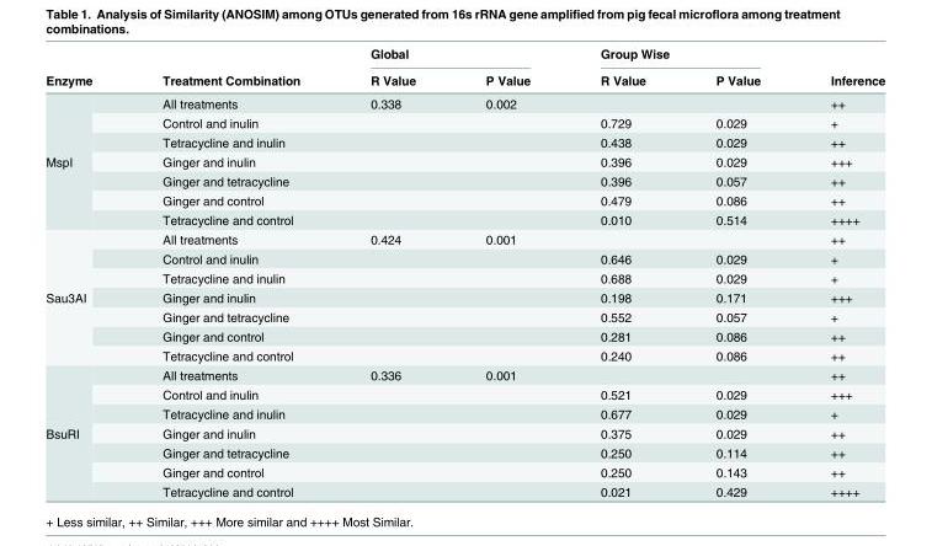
<table><thead><tr><td rowspan="2">Enzyme</td><td rowspan="2">Treatment Combination</td><td colspan="2">Global</td><td colspan="2">Group Wise</td><td rowspan="2">Inference</td></tr><tr><td>R Value</td><td>P Value</td><td>R Value</td><td>P Value</td></tr></thead><tbody><tr><td rowspan="7">MspI</td><td>All treatments</td><td>0.338</td><td>0.002</td><td></td><td></td><td>++</td></tr><tr><td>Control and inulin</td><td></td><td></td><td>0.729</td><td>0.029</td><td>+</td></tr><tr><td>Tetracycline and inulin</td><td></td><td></td><td>0.438</td><td>0.029</td><td>++</td></tr><tr><td>Ginger and inulin</td><td></td><td></td><td>0.396</td><td>0.029</td><td>+++</td></tr><tr><td>Ginger and tetracycline</td><td></td><td></td><td>0.396</td><td>0.057</td><td>++</td></tr><tr><td>Ginger and control</td><td></td><td></td><td>0.479</td><td>0.086</td><td>++</td></tr><tr><td>Tetracycline and control</td><td></td><td></td><td>0.010</td><td>0.514</td><td>++++</td></tr><tr><td rowspan="7">Sau3AI</td><td>All treatments</td><td>0.424</td><td>0.001</td><td></td><td></td><td>++</td></tr><tr><td>Control and inulin</td><td></td><td></td><td>0.646</td><td>0.029</td><td>+</td></tr><tr><td>Tetracycline and inulin</td><td></td><td></td><td>0.688</td><td>0.029</td><td>+</td></tr><tr><td>Ginger and inulin</td><td></td><td></td><td>0.198</td><td>0.171</td><td>+++</td></tr><tr><td>Ginger and tetracycline</td><td></td><td></td><td>0.552</td><td>0.057</td><td>+</td></tr><tr><td>Ginger and control</td><td></td><td></td><td>0.281</td><td>0.086</td><td>++</td></tr><tr><td>Tetracycline and control</td><td></td><td></td><td>0.240</td><td>0.086</td><td>++</td></tr><tr><td rowspan="7">BsuRI</td><td>All treatments</td><td>0.336</td><td>0.001</td><td></td><td></td><td>++</td></tr><tr><td>Control and inulin</td><td></td><td></td><td>0.521</td><td>0.029</td><td>+++</td></tr><tr><td>Tetracycline and inulin</td><td></td><td></td><td>0.677</td><td>0.029</td><td>+</td></tr><tr><td>Ginger and inulin</td><td></td><td></td><td>0.375</td><td>0.029</td><td>++</td></tr><tr><td>Ginger and tetracycline</td><td></td><td></td><td>0.250</td><td>0.114</td><td>++</td></tr><tr><td>Ginger and control</td><td></td><td></td><td>0.250</td><td>0.143</td><td>++</td></tr><tr><td>Tetracycline and control</td><td></td><td></td><td>0.021</td><td>0.429</td><td>++++</td></tr></tbody></table>